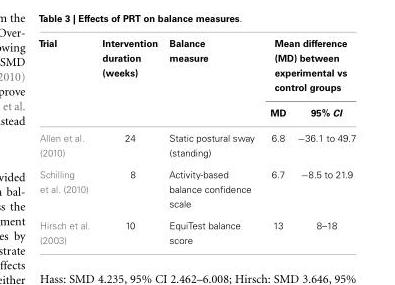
<table><thead><tr><td rowspan="2">Trial</td><td rowspan="2">Intervention duration (weeks)</td><td rowspan="2">Balance measure</td><td colspan="2">Mean difference (MD) between experimental vs control groups</td></tr><tr><td>MD</td><td>95% CI</td></tr></thead><tbody><tr><td>Allen et al. (2010)</td><td>24</td><td>Static postural sway (standing)</td><td>6.8</td><td>−36.1 to 49.7</td></tr><tr><td>Schilling et al. (2010)</td><td>8</td><td>Activity-based balance confidence scale</td><td>6.7</td><td>−8.5 to 21.9</td></tr><tr><td>Hirsch et al. (2003)</td><td>10</td><td>EquiTest balance score</td><td>13</td><td>8–18</td></tr></tbody></table>